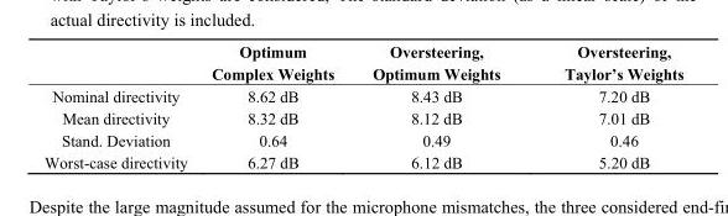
<table><thead><tr><td></td><td>Optimum Complex Weights</td><td>Oversteering, Optimum Weights</td><td>Oversteering, Taylor’s Weights</td></tr></thead><tbody><tr><td>Nominal directivity</td><td>8.62 dB</td><td>8.43 dB</td><td>7.20 dB</td></tr><tr><td>Mean directivity</td><td>8.32 dB</td><td>8.12 dB</td><td>7.01 dB</td></tr><tr><td>Stand. Deviation</td><td>0.64</td><td>0.49</td><td>0.46</td></tr><tr><td>Worst-case directivity</td><td>6.27 dB</td><td>6.12 dB</td><td>5.20 dB</td></tr></tbody></table>